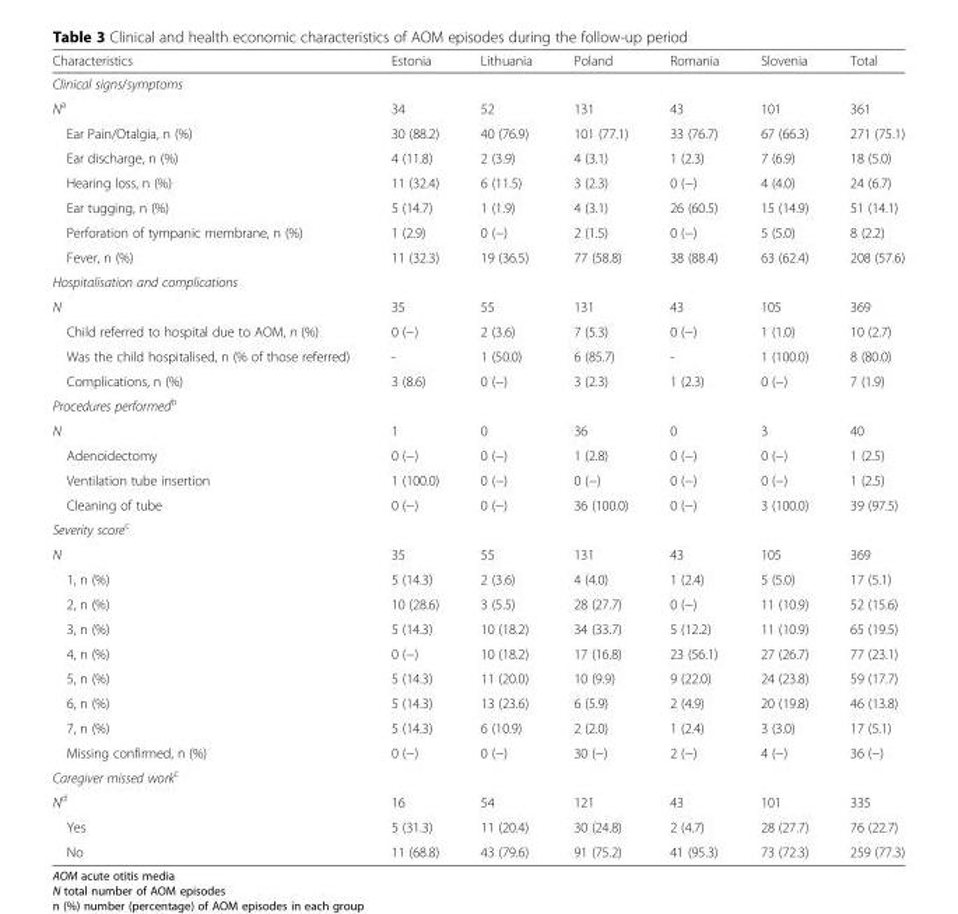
<table><thead><tr><td>Characteristics</td><td>Estonia</td><td>Lithuania</td><td>Poland</td><td>Romania</td><td>Slovenia</td><td>Total</td></tr></thead><tbody><tr><td colspan="7">Clinical signs/symptoms</td></tr><tr><td>N<sup>a</sup></td><td>34</td><td>52</td><td>131</td><td>43</td><td>101</td><td>361</td></tr><tr><td>Ear Pain/Otalgia, n (%)</td><td>30 (88.2)</td><td>40 (76.9)</td><td>101 (77.1)</td><td>33 (76.7)</td><td>67 (66.3)</td><td>271 (75.1)</td></tr><tr><td>Ear discharge, n (%)</td><td>4 (11.8)</td><td>2 (3.9)</td><td>4 (3.1)</td><td>1 (2.3)</td><td>7 (6.9)</td><td>18 (5.0)</td></tr><tr><td>Hearing loss, n (%)</td><td>11 (32.4)</td><td>6 (11.5)</td><td>3 (2.3)</td><td>0 (−)</td><td>4 (4.0)</td><td>24 (6.7)</td></tr><tr><td>Ear tugging, n (%)</td><td>5 (14.7)</td><td>1 (1.9)</td><td>4 (3.1)</td><td>26 (60.5)</td><td>15 (14.9)</td><td>51 (14.1)</td></tr><tr><td>Perforation of tympanic membrane, n (%)</td><td>1 (2.9)</td><td>0 (−)</td><td>2 (1.5)</td><td>0 (−)</td><td>5 (5.0)</td><td>8 (2.2)</td></tr><tr><td>Fever, n (%)</td><td>11 (32.3)</td><td>19 (36.5)</td><td>77 (58.8)</td><td>38 (88.4)</td><td>63 (62.4)</td><td>208 (57.6)</td></tr><tr><td colspan="7">Hospitalisation and complications</td></tr><tr><td>N</td><td>35</td><td>55</td><td>131</td><td>43</td><td>105</td><td>369</td></tr><tr><td>Child referred to hospital due to AOM, n (%)</td><td>0 (−)</td><td>2 (3.6)</td><td>7 (5.3)</td><td>0 (−)</td><td>1 (1.0)</td><td>10 (2.7)</td></tr><tr><td>Was the child hospitalised, n (% of those referred)</td><td>-</td><td>1 (50.0)</td><td>6 (85.7)</td><td>-</td><td>1 (100.0)</td><td>8 (80.0)</td></tr><tr><td>Complications, n (%)</td><td>3 (8.6)</td><td>0 (−)</td><td>3 (2.3)</td><td>1 (2.3)</td><td>0 (−)</td><td>7 (1.9)</td></tr><tr><td colspan="7">Procedures performed<sup>b</sup></td></tr><tr><td>N</td><td>1</td><td>0</td><td>36</td><td>0</td><td>3</td><td>40</td></tr><tr><td>Adenoidectomy</td><td>0 (−)</td><td>0 (−)</td><td>1 (2.8)</td><td>0 (−)</td><td>0 (−)</td><td>1 (2.5)</td></tr><tr><td>Ventilation tube insertion</td><td>1 (100.0)</td><td>0 (−)</td><td>0 (−)</td><td>0 (−)</td><td>0 (−)</td><td>1 (2.5)</td></tr><tr><td>Cleaning of tube</td><td>0 (−)</td><td>0 (−)</td><td>36 (100.0)</td><td>0 (−)</td><td>3 (100.0)</td><td>39 (97.5)</td></tr><tr><td colspan="7">Severity score<sup>c</sup></td></tr><tr><td>N</td><td>35</td><td>55</td><td>131</td><td>43</td><td>105</td><td>369</td></tr><tr><td>1, n (%)</td><td>5 (14.3)</td><td>2 (3.6)</td><td>4 (4.0)</td><td>1 (2.4)</td><td>5 (5.0)</td><td>17 (5.1)</td></tr><tr><td>2, n (%)</td><td>10 (28.6)</td><td>3 (5.5)</td><td>28 (27.7)</td><td>0 (−)</td><td>11 (10.9)</td><td>52 (15.6)</td></tr><tr><td>3, n (%)</td><td>5 (14.3)</td><td>10 (18.2)</td><td>34 (33.7)</td><td>5 (12.2)</td><td>11 (10.9)</td><td>65 (19.5)</td></tr><tr><td>4, n (%)</td><td>0 (−)</td><td>10 (18.2)</td><td>17 (16.8)</td><td>23 (56.1)</td><td>27 (26.7)</td><td>77 (23.1)</td></tr><tr><td>5, n (%)</td><td>5 (14.3)</td><td>11 (20.0)</td><td>10 (9.9)</td><td>9 (22.0)</td><td>24 (23.8)</td><td>59 (17.7)</td></tr><tr><td>6, n (%)</td><td>5 (14.3)</td><td>13 (23.6)</td><td>6 (5.9)</td><td>2 (4.9)</td><td>20 (19.8)</td><td>46 (13.8)</td></tr><tr><td>7, n (%)</td><td>5 (14.3)</td><td>6 (10.9)</td><td>2 (2.0)</td><td>1 (2.4)</td><td>3 (3.0)</td><td>17 (5.1)</td></tr><tr><td>Missing confirmed, n (%)</td><td>0 (−)</td><td>0 (−)</td><td>30 (−)</td><td>2 (−)</td><td>4 (−)</td><td>36 (−)</td></tr><tr><td colspan="7">Caregiver missed work<sup>c</sup></td></tr><tr><td>N<sup>d</sup></td><td>16</td><td>54</td><td>121</td><td>43</td><td>101</td><td>335</td></tr><tr><td>Yes</td><td>5 (31.3)</td><td>11 (20.4)</td><td>30 (24.8)</td><td>2 (4.7)</td><td>28 (27.7)</td><td>76 (22.7)</td></tr><tr><td>No</td><td>11 (68.8)</td><td>43 (79.6)</td><td>91 (75.2)</td><td>41 (95.3)</td><td>73 (72.3)</td><td>259 (77.3)</td></tr></tbody></table>